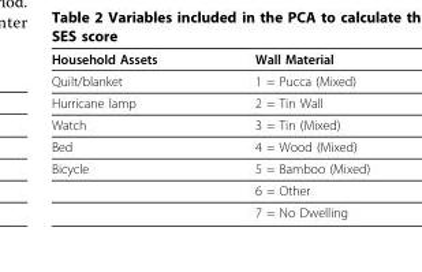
<table><thead><tr><td>Household Assets</td><td>Wall Material</td></tr></thead><tbody><tr><td>Quilt/blanket</td><td>1 = Pucca (Mixed)</td></tr><tr><td>Hurricane lamp</td><td>2 = Tin Wall</td></tr><tr><td>Watch</td><td>3 = Tin (Mixed)</td></tr><tr><td>Bed</td><td>4 = Wood (Mixed)</td></tr><tr><td rowspan="3">Bicycle</td><td>5 = Bamboo (Mixed)</td></tr><tr><td>6 = Other</td></tr><tr><td>7 = No Dwelling</td></tr></tbody></table>